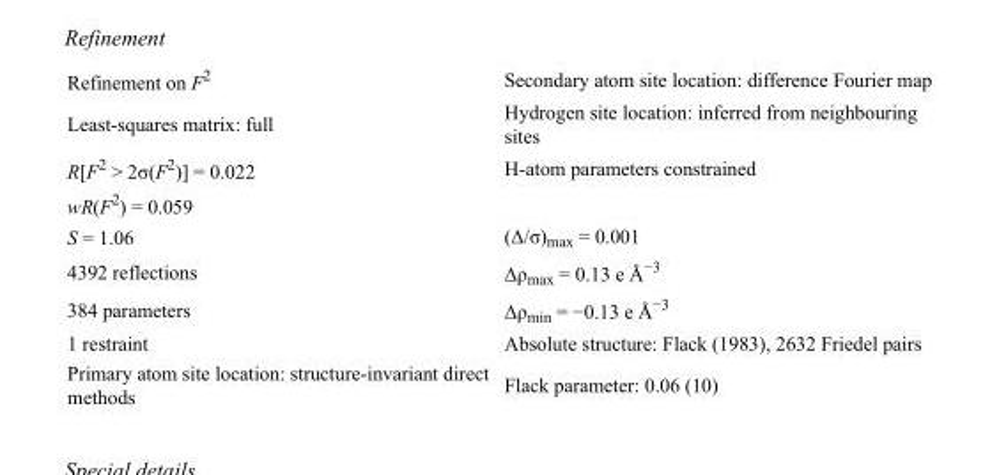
<table><tbody><tr><td>Refinement on F<sup>2</sup></td><td>Secondary atom site location: difference Fourier map</td></tr><tr><td>Least-squares matrix: full</td><td>Hydrogen site location: inferred from neighbouring sites</td></tr><tr><td>R[F<sup>2</sup> &gt; 2σ(F<sup>2</sup>)] = 0.022</td><td>H-atom parameters constrained</td></tr><tr><td colspan="2">wR(F<sup>2</sup>) = 0.059</td></tr><tr><td>S = 1.06</td><td>(Δ/σ)<sub>max</sub> = 0.001</td></tr><tr><td>4392 reflections</td><td>Δρ<sub>max</sub> = 0.13 e Å<sup>−3</sup></td></tr><tr><td>384 parameters</td><td>Δρ<sub>min</sub> = −0.13 e Å<sup>−3</sup></td></tr><tr><td>1 restraint</td><td>Absolute structure: Flack (1983), 2632 Friedel pairs</td></tr><tr><td>Primary atom site location: structure-invariant direct methods</td><td>Flack parameter: 0.06 (10)</td></tr></tbody></table>